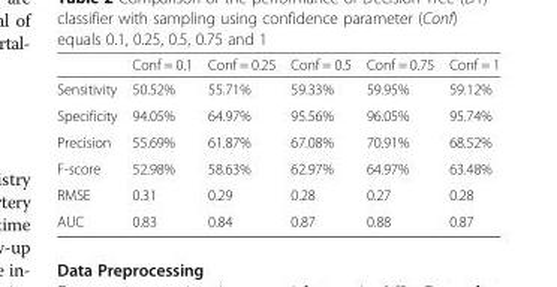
<table><thead><tr><td></td><td>Conf = 0.1</td><td>Conf = 0.25</td><td>Conf = 0.5</td><td>Conf = 0.75</td><td>Conf = 1</td></tr></thead><tbody><tr><td>Sensitivity</td><td>50.52%</td><td>55.71%</td><td>59.33%</td><td>59.95%</td><td>59.12%</td></tr><tr><td>Specificity</td><td>94.05%</td><td>64.97%</td><td>95.56%</td><td>96.05%</td><td>95.74%</td></tr><tr><td>Precision</td><td>55.69%</td><td>61.87%</td><td>67.08%</td><td>70.91%</td><td>68.52%</td></tr><tr><td>F-score</td><td>52.98%</td><td>58.63%</td><td>62.97%</td><td>64.97%</td><td>63.48%</td></tr><tr><td>RMSE</td><td>0.31</td><td>0.29</td><td>0.28</td><td>0.27</td><td>0.28</td></tr><tr><td>AUC</td><td>0.83</td><td>0.84</td><td>0.87</td><td>0.88</td><td>0.87</td></tr></tbody></table>